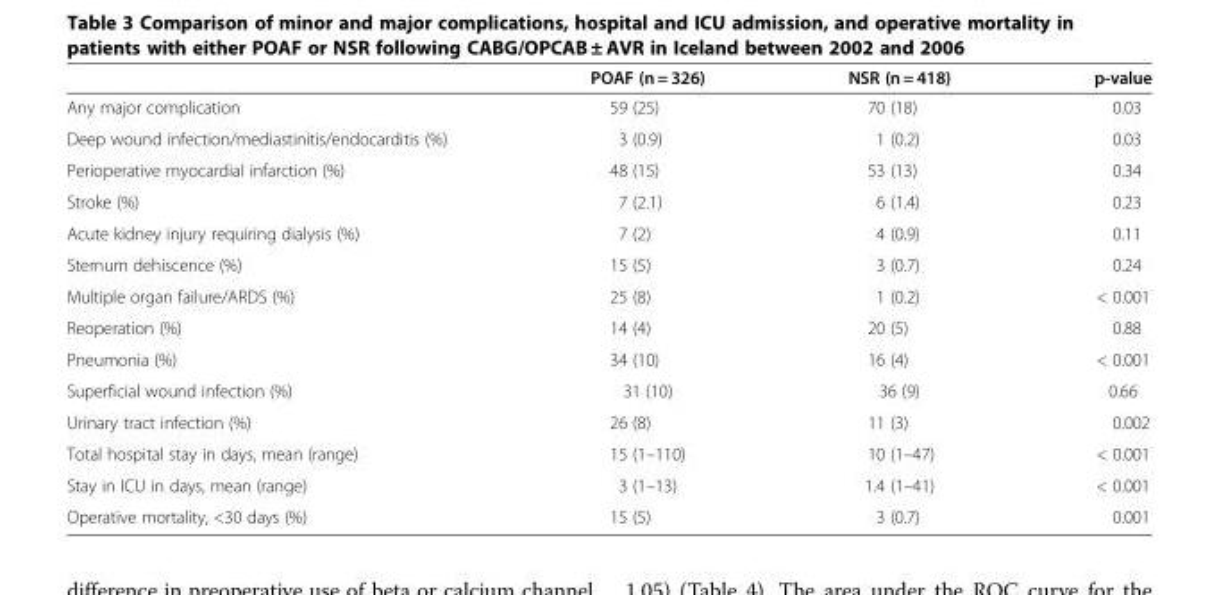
<table><thead><tr><td></td><td>POAF (n = 326)</td><td>NSR (n = 418)</td><td>p-value</td></tr></thead><tbody><tr><td>Any major complication</td><td>59 (25)</td><td>70 (18)</td><td>0.03</td></tr><tr><td>Deep wound infection/mediastinitis/endocarditis (%)</td><td>3 (0.9)</td><td>1 (0.2)</td><td>0.03</td></tr><tr><td>Perioperative myocardial infarction (%)</td><td>48 (15)</td><td>53 (13)</td><td>0.34</td></tr><tr><td>Stroke (%)</td><td>7 (2.1)</td><td>6 (1.4)</td><td>0.23</td></tr><tr><td>Acute kidney injury requiring dialysis (%)</td><td>7 (2)</td><td>4 (0.9)</td><td>0.11</td></tr><tr><td>Sternum dehiscence (%)</td><td>15 (5)</td><td>3 (0.7)</td><td>0.24</td></tr><tr><td>Multiple organ failure/ARDS (%)</td><td>25 (8)</td><td>1 (0.2)</td><td>&lt; 0.001</td></tr><tr><td>Reoperation (%)</td><td>14 (4)</td><td>20 (5)</td><td>0.88</td></tr><tr><td>Pneumonia (%)</td><td>34 (10)</td><td>16 (4)</td><td>&lt; 0.001</td></tr><tr><td>Superficial wound infection (%)</td><td>31 (10)</td><td>36 (9)</td><td>0.66</td></tr><tr><td>Urinary tract infection (%)</td><td>26 (8)</td><td>11 (3)</td><td>0.002</td></tr><tr><td>Total hospital stay in days, mean (range)</td><td>15 (1–110)</td><td>10 (1–47)</td><td>&lt; 0.001</td></tr><tr><td>Stay in ICU in days, mean (range)</td><td>3 (1–13)</td><td>1.4 (1–41)</td><td>&lt; 0.001</td></tr><tr><td>Operative mortality, &lt;30 days (%)</td><td>15 (5)</td><td>3 (0.7)</td><td>0.001</td></tr></tbody></table>